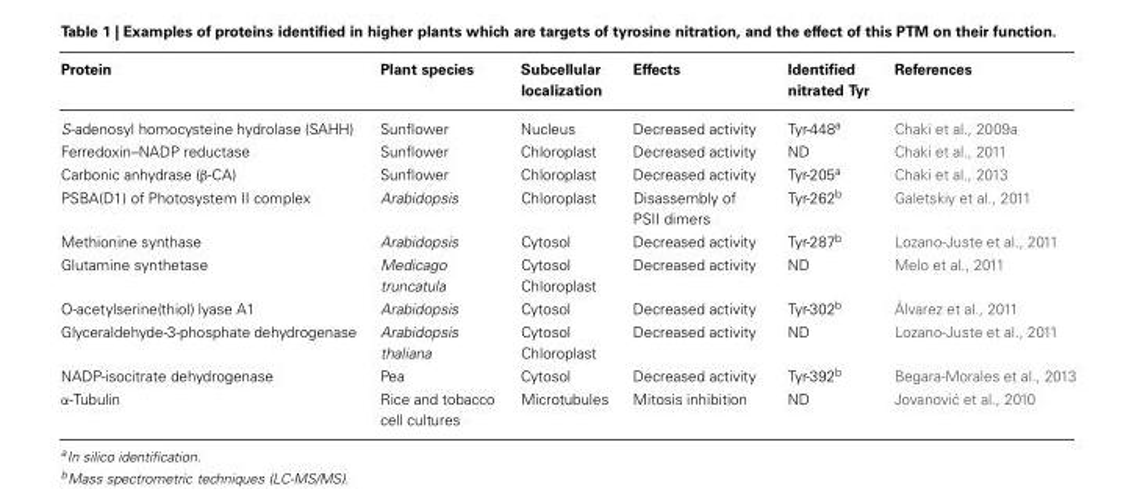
<table><thead><tr><td>Protein</td><td>Plant species</td><td>Subcellular localization</td><td>Effects</td><td>Identified nitrated Tyr</td><td>References</td></tr></thead><tbody><tr><td>S-adenosyl homocysteine hydrolase (SAHH)</td><td>Sunflower</td><td>Nucleus</td><td>Decreased activity</td><td>Tyr-448<sup>a</sup></td><td>Chaki et al., 2009a</td></tr><tr><td>Ferredoxin–NADP reductase</td><td>Sunflower</td><td>Chloroplast</td><td>Decreased activity</td><td>ND</td><td>Chaki et al., 2011</td></tr><tr><td>Carbonic anhydrase (β-CA)</td><td>Sunflower</td><td>Chloroplast</td><td>Decreased activity</td><td>Tyr-205<sup>a</sup></td><td>Chaki et al., 2013</td></tr><tr><td>PSBA(D1) of Photosystem II complex</td><td>Arabidopsis</td><td>Chloroplast</td><td>Disassembly of PSII dimers</td><td>Tyr-262<sup>b</sup></td><td>Galetskiy et al., 2011</td></tr><tr><td>Methionine synthase</td><td>Arabidopsis</td><td>Cytosol</td><td>Decreased activity</td><td>Tyr-287<sup>b</sup></td><td>Lozano-Juste et al., 2011</td></tr><tr><td>Glutamine synthetase</td><td>Medicago truncatula</td><td>Cytosol Chloroplast</td><td>Decreased activity</td><td>ND</td><td>Melo et al., 2011</td></tr><tr><td>O-acetylserine(thiol) lyase A1</td><td>Arabidopsis</td><td>Cytosol</td><td>Decreased activity</td><td>Tyr-302<sup>b</sup></td><td>Álvarez et al., 2011</td></tr><tr><td>Glyceraldehyde-3-phosphate dehydrogenase</td><td>Arabidopsis thaliana</td><td>Cytosol Chloroplast</td><td>Decreased activity</td><td>ND</td><td>Lozano-Juste et al., 2011</td></tr><tr><td>NADP-isocitrate dehydrogenase</td><td>Pea</td><td>Cytosol</td><td>Decreased activity</td><td>Tyr-392<sup>b</sup></td><td>Begara-Morales et al., 2013</td></tr><tr><td>α-Tubulin</td><td>Rice and tobacco cell cultures</td><td>Microtubules</td><td>Mitosis inhibition</td><td>ND</td><td>Jovanovi´c et al., 2010</td></tr></tbody></table>